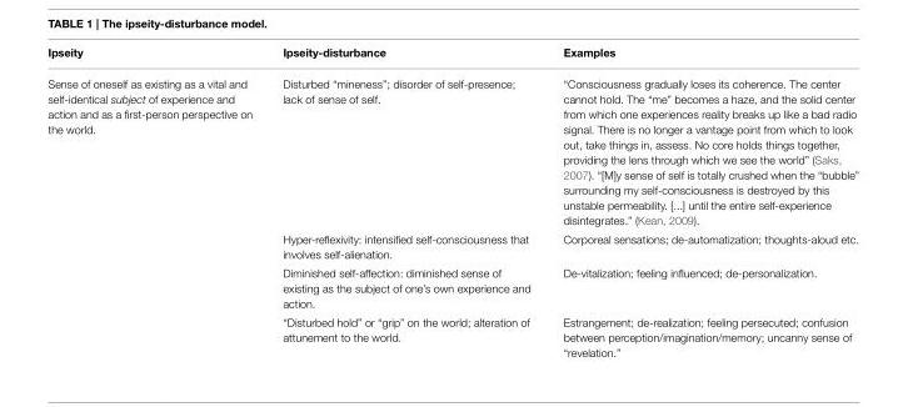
<table><thead><tr><td>Ipseity</td><td>Ipseity-disturbance</td><td>Examples</td></tr></thead><tbody><tr><td rowspan="4">Sense of oneself as existing as a vital and self-identical subject of experience and action and as a first-person perspective on the world.</td><td>Disturbed “mineness”; disorder of self-presence; lack of sense of self.</td><td>“Consciousness gradually loses its coherence. The center cannot hold. The “me” becomes a haze, and the solid center from which one experiences reality breaks up like a bad radio signal. There is no longer a vantage point from which to look out, take things in, assess. No core holds things together, providing the lens through which we see the world” (Saks, 2007). “[M]y sense of self is totally crushed when the “bubble” surrounding my self-consciousness is destroyed by this unstable permeability. [...] until the entire self-experience disintegrates.” (Kean, 2009).</td></tr><tr><td>Hyper-reflexivity: intensified self-consciousness that involves self-alienation.</td><td>Corporeal sensations; de-automatization; thoughts-aloud etc.</td></tr><tr><td>Diminished self-affection: diminished sense of existing as the subject of one’s own experience and action.</td><td>De-vitalization; feeling influenced; de-personalization.</td></tr><tr><td>“Disturbed hold” or “grip” on the world; alteration of attunement to the world.</td><td>Estrangement; de-realization; feeling persecuted; confusion between perception/imagination/memory; uncanny sense of “revelation.”</td></tr></tbody></table>